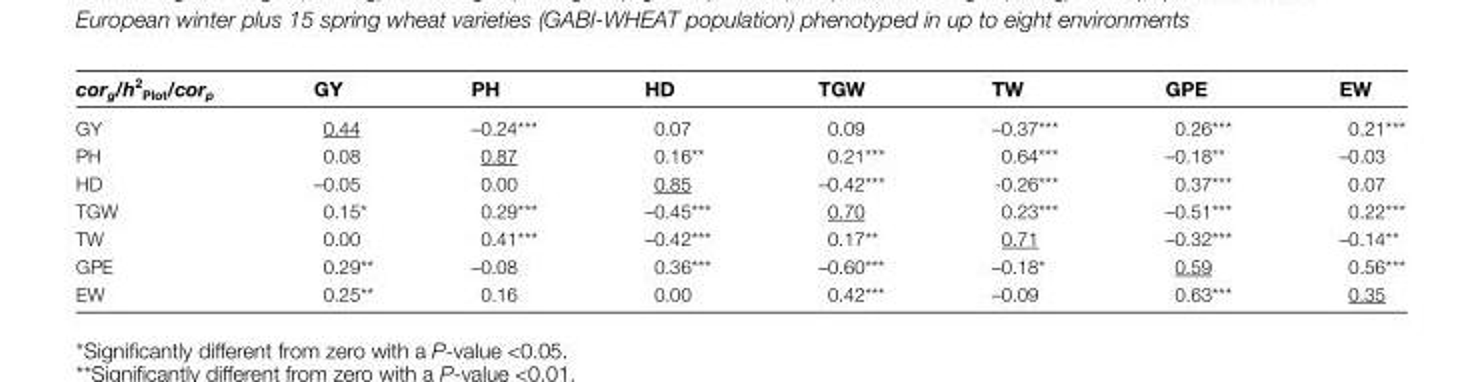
<table><thead><tr><td>cor<sub>g</sub>/h<sup>2</sup> <sub>Plot</sub>/cor<sub>p</sub></td><td>GY</td><td>PH</td><td>HD</td><td>TGW</td><td>TW</td><td>GPE</td><td>EW</td></tr></thead><tbody><tr><td>GY</td><td>0.44</td><td>–0.24***</td><td>0.07</td><td>0.09</td><td>–0.37***</td><td>0.26***</td><td>0.21***</td></tr><tr><td>PH</td><td>0.08</td><td>0.87</td><td>0.16**</td><td>0.21***</td><td>0.64***</td><td>–0.18**</td><td>–0.03</td></tr><tr><td>HD</td><td>–0.05</td><td>0.00</td><td>0.85</td><td>–0.42***</td><td>-0.26***</td><td>0.37***</td><td>0.07</td></tr><tr><td>TGW</td><td>0.15*</td><td>0.29***</td><td>–0.45***</td><td>0.70</td><td>0.23***</td><td>–0.51***</td><td>0.22***</td></tr><tr><td>TW</td><td>0.00</td><td>0.41***</td><td>–0.42***</td><td>0.17**</td><td>0.71</td><td>–0.32***</td><td>–0.14**</td></tr><tr><td>GPE</td><td>0.29**</td><td>–0.08</td><td>0.36***</td><td>–0.60***</td><td>–0.18*</td><td>0.59</td><td>0.56***</td></tr><tr><td>EW</td><td>0.25**</td><td>0.16</td><td>0.00</td><td>0.42***</td><td>–0.09</td><td>0.63***</td><td>0.35</td></tr></tbody></table>